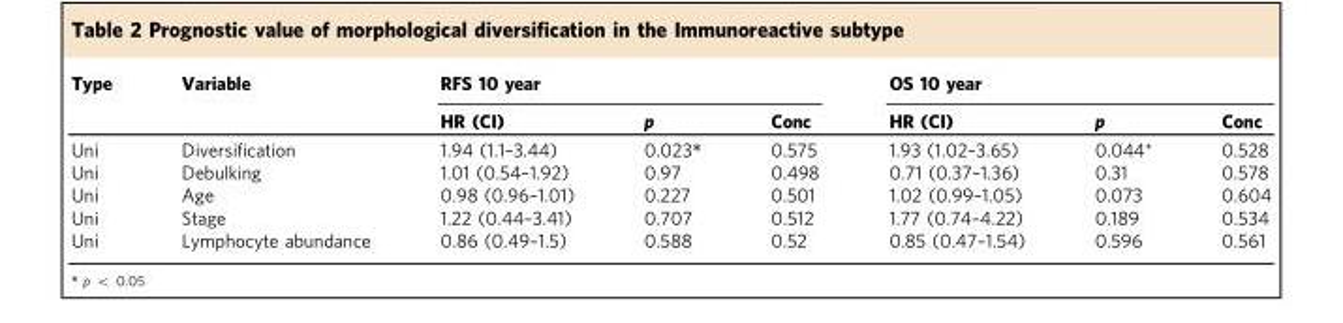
<table><thead><tr><td rowspan="2">Type</td><td rowspan="2">Variable</td><td colspan="3">RFS 10 year</td><td colspan="3">OS 10 year</td></tr><tr><td>HR (CI)</td><td>p</td><td>Conc</td><td>HR (CI)</td><td>p</td><td>Conc</td></tr></thead><tbody><tr><td>Uni</td><td>Diversification</td><td>1.94 (1.1–3.44)</td><td>0.023*</td><td>0.575</td><td>1.93 (1.02–3.65)</td><td>0.044*</td><td>0.528</td></tr><tr><td>Uni</td><td>Debulking</td><td>1.01 (0.54–1.92)</td><td>0.97</td><td>0.498</td><td>0.71 (0.37–1.36)</td><td>0.31</td><td>0.578</td></tr><tr><td>Uni</td><td>Age</td><td>0.98 (0.96–1.01)</td><td>0.227</td><td>0.501</td><td>1.02 (0.99–1.05)</td><td>0.073</td><td>0.604</td></tr><tr><td>Uni</td><td>Stage</td><td>1.22 (0.44–3.41)</td><td>0.707</td><td>0.512</td><td>1.77 (0.74–4.22)</td><td>0.189</td><td>0.534</td></tr><tr><td>Uni</td><td>Lymphocyte abundance</td><td>0.86 (0.49–1.5)</td><td>0.588</td><td>0.52</td><td>0.85 (0.47–1.54)</td><td>0.596</td><td>0.561</td></tr></tbody></table>